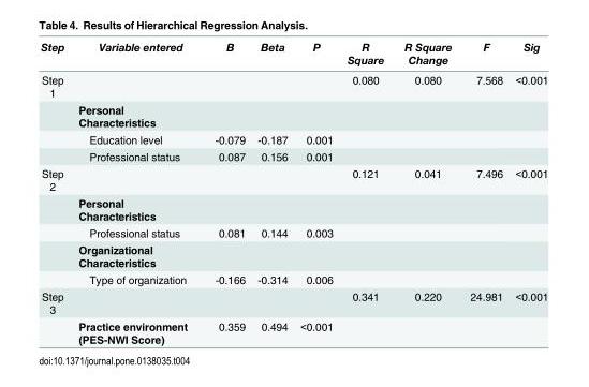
<table><thead><tr><td>Step</td><td>Variable entered</td><td>B</td><td>Beta</td><td>P</td><td>R Square</td><td>R Square Change</td><td>F</td><td>Sig</td></tr></thead><tbody><tr><td rowspan="4">Step 1</td><td></td><td></td><td></td><td></td><td>0.080</td><td>0.080</td><td>7.568</td><td>&lt;0.001</td></tr><tr><td>Personal Characteristics</td><td></td><td></td><td></td><td></td><td></td><td></td><td></td></tr><tr><td>Education level</td><td>-0.079</td><td>-0.187</td><td>0.001</td><td></td><td></td><td></td><td></td></tr><tr><td>Professional status</td><td>0.087</td><td>0.156</td><td>0.001</td><td></td><td></td><td></td><td></td></tr><tr><td rowspan="5">Step 2</td><td></td><td></td><td></td><td></td><td>0.121</td><td>0.041</td><td>7.496</td><td>&lt;0.001</td></tr><tr><td>Personal Characteristics</td><td></td><td></td><td></td><td></td><td></td><td></td><td></td></tr><tr><td>Professional status</td><td>0.081</td><td>0.144</td><td>0.003</td><td></td><td></td><td></td><td></td></tr><tr><td>Organizational Characteristics</td><td></td><td></td><td></td><td></td><td></td><td></td><td></td></tr><tr><td>Type of organization</td><td>-0.166</td><td>-0.314</td><td>0.006</td><td></td><td></td><td></td><td></td></tr><tr><td rowspan="2">Step 3</td><td></td><td></td><td></td><td></td><td>0.341</td><td>0.220</td><td>24.981</td><td>&lt;0.001</td></tr><tr><td>Practice environment (PES-NWI Score)</td><td>0.359</td><td>0.494</td><td>&lt;0.001</td><td></td><td></td><td></td><td></td></tr></tbody></table>